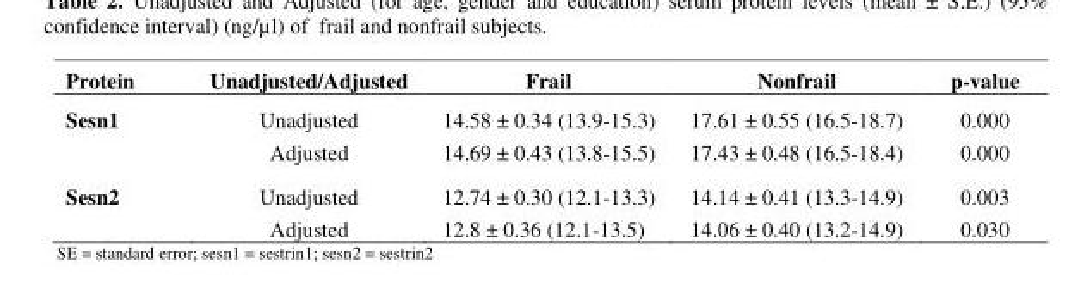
<table><thead><tr><td>Protein</td><td>Unadjusted/Adjusted</td><td>Frail</td><td>Nonfrail</td><td>p-value</td></tr></thead><tbody><tr><td rowspan="2">Sesn1</td><td>Unadjusted</td><td>14.58 ± 0.34 (13.9-15.3)</td><td>17.61 ± 0.55 (16.5-18.7)</td><td>0.000</td></tr><tr><td>Adjusted</td><td>14.69 ± 0.43 (13.8-15.5)</td><td>17.43 ± 0.48 (16.5-18.4)</td><td>0.000</td></tr><tr><td rowspan="2">Sesn2</td><td>Unadjusted</td><td>12.74 ± 0.30 (12.1-13.3)</td><td>14.14 ± 0.41 (13.3-14.9)</td><td>0.003</td></tr><tr><td>Adjusted</td><td>12.8 ± 0.36 (12.1-13.5)</td><td>14.06 ± 0.40 (13.2-14.9)</td><td>0.030</td></tr></tbody></table>